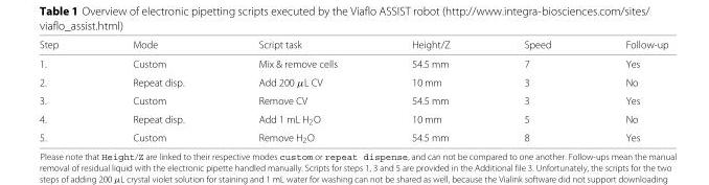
<table><thead><tr><td>Step</td><td>Mode</td><td>Script task</td><td>Height/Z</td><td>Speed</td><td>Follow-up</td></tr></thead><tbody><tr><td>1.</td><td>Custom</td><td>Mix &amp; remove cells</td><td>54.5 mm</td><td>7</td><td>Yes</td></tr><tr><td>2.</td><td>Repeat disp.</td><td>Add 200 μL CV</td><td>10 mm</td><td>3</td><td>No</td></tr><tr><td>3.</td><td>Custom</td><td>Remove CV</td><td>54.5 mm</td><td>3</td><td>Yes</td></tr><tr><td>4.</td><td>Repeat disp.</td><td>Add 1 mL H<sub>2</sub>O</td><td>10 mm</td><td>5</td><td>No</td></tr><tr><td>5.</td><td>Custom</td><td>Remove H<sub>2</sub>O</td><td>54.5 mm</td><td>8</td><td>Yes</td></tr></tbody></table>